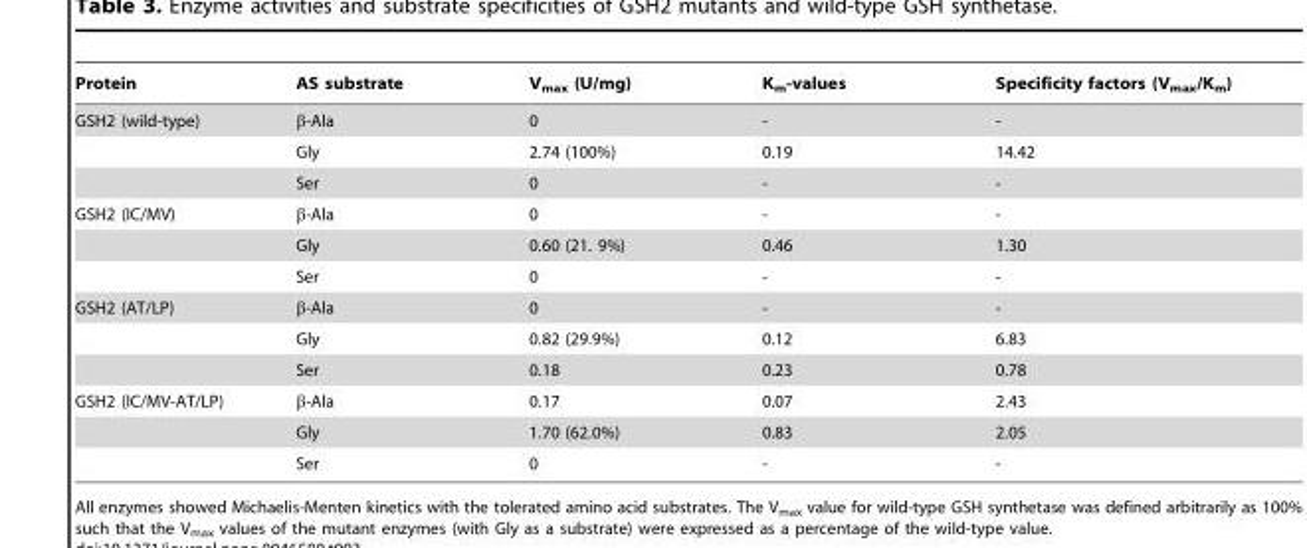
<table><thead><tr><td>Protein</td><td>AS substrate</td><td>V<sub>max</sub> (U/mg)</td><td>K<sub>m</sub>-values</td><td>Specificity factors (V<sub>max</sub>/K<sub>m</sub>)</td></tr></thead><tbody><tr><td rowspan="3">GSH2 (wild-type)</td><td>β-Ala</td><td>0</td><td>-</td><td>-</td></tr><tr><td>Gly</td><td>2.74 (100%)</td><td>0.19</td><td>14.42</td></tr><tr><td>Ser</td><td>0</td><td>-</td><td>-</td></tr><tr><td rowspan="3">GSH2 (IC/MV)</td><td>β-Ala</td><td>0</td><td>-</td><td>-</td></tr><tr><td>Gly</td><td>0.60 (21. 9%)</td><td>0.46</td><td>1.30</td></tr><tr><td>Ser</td><td>0</td><td>-</td><td>-</td></tr><tr><td rowspan="3">GSH2 (AT/LP)</td><td>β-Ala</td><td>0</td><td>-</td><td>-</td></tr><tr><td>Gly</td><td>0.82 (29.9%)</td><td>0.12</td><td>6.83</td></tr><tr><td>Ser</td><td>0.18</td><td>0.23</td><td>0.78</td></tr><tr><td rowspan="3">GSH2 (IC/MV-AT/LP)</td><td>β-Ala</td><td>0.17</td><td>0.07</td><td>2.43</td></tr><tr><td>Gly</td><td>1.70 (62.0%)</td><td>0.83</td><td>2.05</td></tr><tr><td>Ser</td><td>0</td><td>-</td><td>-</td></tr></tbody></table>